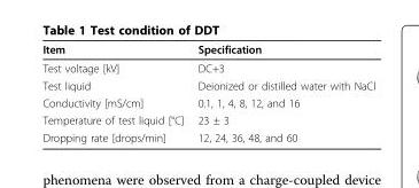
<table><thead><tr><td>Item</td><td>Specification</td></tr></thead><tbody><tr><td>Test voltage [kV]</td><td>DC+3</td></tr><tr><td>Test liquid</td><td>Deionized or distilled water with NaCl</td></tr><tr><td>Conductivity [mS/cm]</td><td>0.1, 1, 4, 8, 12, and 16</td></tr><tr><td>Temperature of test liquid [°C]</td><td>23 ± 3</td></tr><tr><td>Dropping rate [drops/min]</td><td>12, 24, 36, 48, and 60</td></tr></tbody></table>